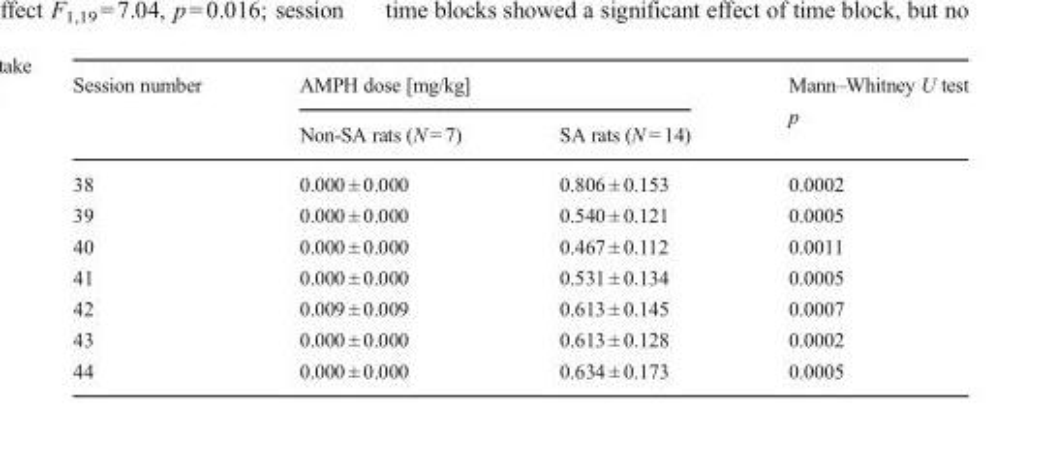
<table><thead><tr><td rowspan="2">Session number</td><td colspan="2">AMPH dose [mg/kg]</td><td rowspan="2">Mann–Whitney U test p</td></tr><tr><td>Non-SA rats (N = 7)</td><td>SA rats (N = 14)</td></tr></thead><tbody><tr><td>38</td><td>0.000 ± 0.000</td><td>0.806 ± 0.153</td><td>0.0002</td></tr><tr><td>39</td><td>0.000 ± 0.000</td><td>0.540 ± 0.121</td><td>0.0005</td></tr><tr><td>40</td><td>0.000 ± 0.000</td><td>0.467 ± 0.112</td><td>0.0011</td></tr><tr><td>41</td><td>0.000 ± 0.000</td><td>0.531 ± 0.134</td><td>0.0005</td></tr><tr><td>42</td><td>0.009 ± 0.009</td><td>0.613 ± 0.145</td><td>0.0007</td></tr><tr><td>43</td><td>0.000 ± 0.000</td><td>0.613 ± 0.128</td><td>0.0002</td></tr><tr><td>44</td><td>0.000 ± 0.000</td><td>0.634 ± 0.173</td><td>0.0005</td></tr></tbody></table>